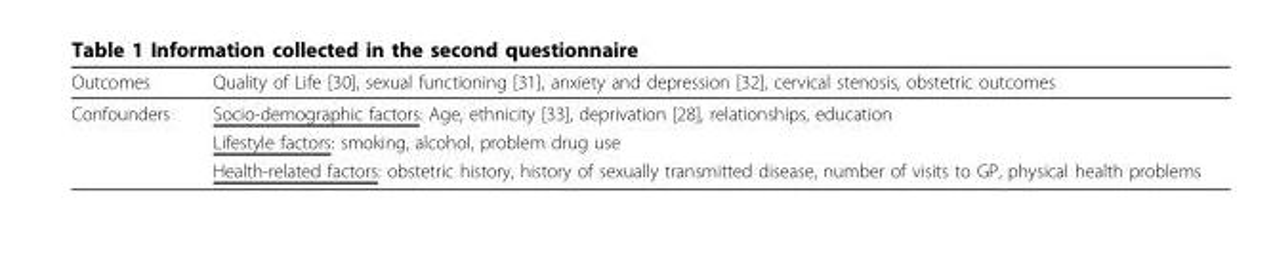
<table><thead><tr><td>Outcomes</td><td>Quality of Life [30], sexual functioning [31], anxiety and depression [32], cervical stenosis, obstetric outcomes</td></tr></thead><tbody><tr><td rowspan="3">Confounders</td><td>Socio-demographic factors: Age, ethnicity [33], deprivation [28], relationships, education</td></tr><tr><td>Lifestyle factors: smoking, alcohol, problem drug use</td></tr><tr><td>Health-related factors: obstetric history, history of sexually transmitted disease, number of visits to GP, physical health problems</td></tr></tbody></table>